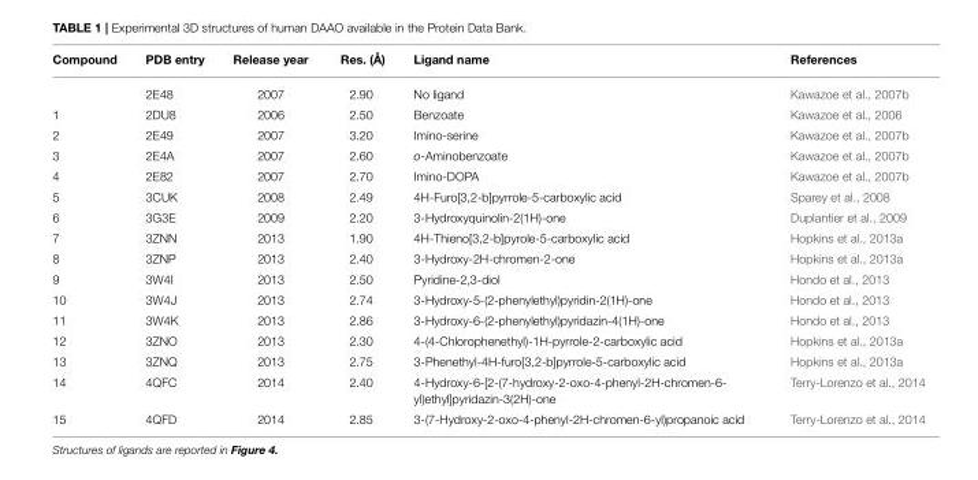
<table><thead><tr><td>Compound</td><td>PDB entry</td><td>Release year</td><td>Res. (Å)</td><td>Ligand name</td><td>References</td></tr></thead><tbody><tr><td></td><td>2E48</td><td>2007</td><td>2.90</td><td>No ligand</td><td>Kawazoe et al., 2007b</td></tr><tr><td>1</td><td>2DU8</td><td>2006</td><td>2.50</td><td>Benzoate</td><td>Kawazoe et al., 2006</td></tr><tr><td>2</td><td>2E49</td><td>2007</td><td>3.20</td><td>Imino-serine</td><td>Kawazoe et al., 2007b</td></tr><tr><td>3</td><td>2E4A</td><td>2007</td><td>2.60</td><td>o-Aminobenzoate</td><td>Kawazoe et al., 2007b</td></tr><tr><td>4</td><td>2E82</td><td>2007</td><td>2.70</td><td>Imino-DOPA</td><td>Kawazoe et al., 2007b</td></tr><tr><td>5</td><td>3CUK</td><td>2008</td><td>2.49</td><td>4H-Furo[3,2-b]pyrrole-5-carboxylic acid</td><td>Sparey et al., 2008</td></tr><tr><td>6</td><td>3G3E</td><td>2009</td><td>2.20</td><td>3-Hydroxyquinolin-2(1H)-one</td><td>Duplantier et al., 2009</td></tr><tr><td>7</td><td>3ZNN</td><td>2013</td><td>1.90</td><td>4H-Thieno[3,2-b]pyrole-5-carboxylic acid</td><td>Hopkins et al., 2013a</td></tr><tr><td>8</td><td>3ZNP</td><td>2013</td><td>2.40</td><td>3-Hydroxy-2H-chromen-2-one</td><td>Hopkins et al., 2013a</td></tr><tr><td>9</td><td>3W4I</td><td>2013</td><td>2.50</td><td>Pyridine-2,3-diol</td><td>Hondo et al., 2013</td></tr><tr><td>10</td><td>3W4J</td><td>2013</td><td>2.74</td><td>3-Hydroxy-5-(2-phenylethyl)pyridin-2(1H)-one</td><td>Hondo et al., 2013</td></tr><tr><td>11</td><td>3W4K</td><td>2013</td><td>2.86</td><td>3-Hydroxy-6-(2-phenylethyl)pyridazin-4(1H)-one</td><td>Hondo et al., 2013</td></tr><tr><td>12</td><td>3ZNO</td><td>2013</td><td>2.30</td><td>4-(4-Chlorophenethyl)-1H-pyrrole-2-carboxylic acid</td><td>Hopkins et al., 2013a</td></tr><tr><td>13</td><td>3ZNQ</td><td>2013</td><td>2.75</td><td>3-Phenethyl-4H-furo[3,2-b]pyrrole-5-carboxylic acid</td><td>Hopkins et al., 2013a</td></tr><tr><td>14</td><td>4QFC</td><td>2014</td><td>2.40</td><td>4-Hydroxy-6-[2-(7-hydroxy-2-oxo-4-phenyl-2H-chromen-6- yl)ethyl]pyridazin-3(2H)-one</td><td>Terry-Lorenzo et al., 2014</td></tr><tr><td>15</td><td>4QFD</td><td>2014</td><td>2.85</td><td>3-(7-Hydroxy-2-oxo-4-phenyl-2H-chromen-6-yl)propanoic acid</td><td>Terry-Lorenzo et al., 2014</td></tr></tbody></table>